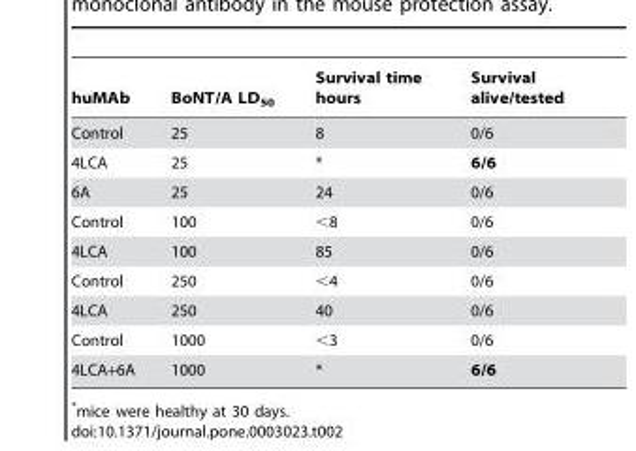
<table><thead><tr><td>huMAb</td><td>BoNT/A LD<sub>50</sub></td><td>Survival time hours</td><td>Survival alive/tested</td></tr></thead><tbody><tr><td>Control</td><td>25</td><td>8</td><td>0/6</td></tr><tr><td>4LCA</td><td>25</td><td>*</td><td>6/6</td></tr><tr><td>6A</td><td>25</td><td>24</td><td>0/6</td></tr><tr><td>Control</td><td>100</td><td>&lt;8</td><td>0/6</td></tr><tr><td>4LCA</td><td>100</td><td>85</td><td>0/6</td></tr><tr><td>Control</td><td>250</td><td>&lt;4</td><td>0/6</td></tr><tr><td>4LCA</td><td>250</td><td>40</td><td>0/6</td></tr><tr><td>Control</td><td>1000</td><td>&lt;3</td><td>0/6</td></tr><tr><td>4LCA+6A</td><td>1000</td><td>*</td><td>6/6</td></tr></tbody></table>